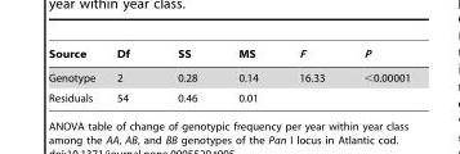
<table><thead><tr><td>Source</td><td>Df</td><td>SS</td><td>MS</td><td>F</td><td>P</td></tr></thead><tbody><tr><td>Genotype</td><td>2</td><td>0.28</td><td>0.14</td><td>16.33</td><td>&lt;0.00001</td></tr><tr><td>Residuals</td><td>54</td><td>0.46</td><td>0.01</td><td></td><td></td></tr></tbody></table>